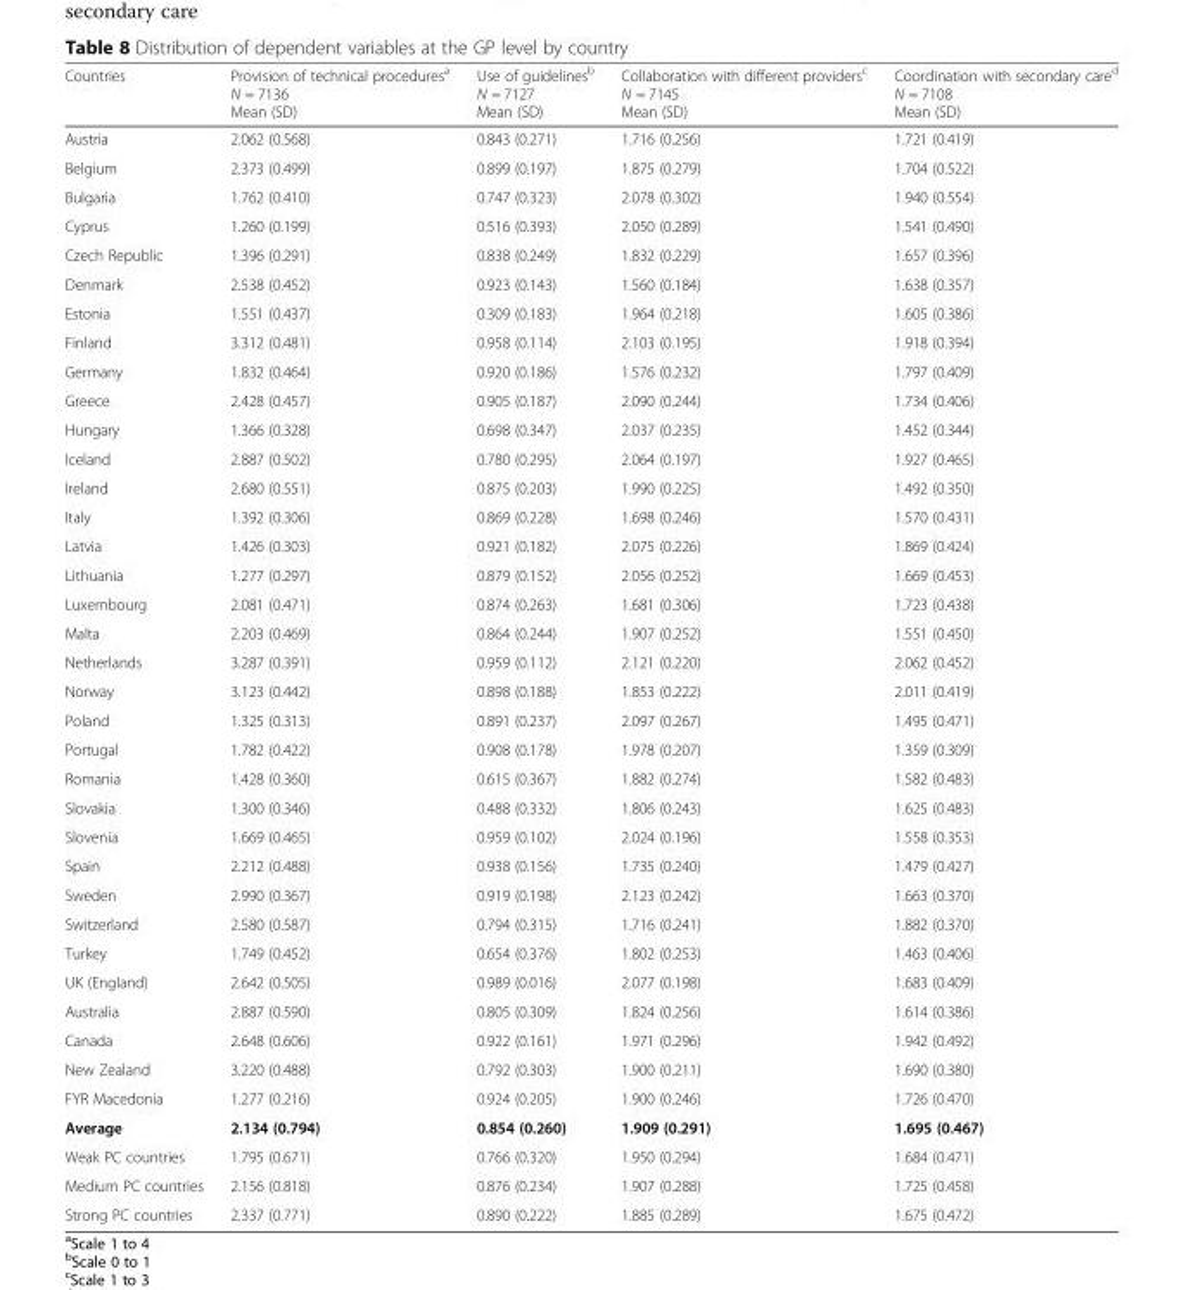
<table><thead><tr><td>Countries</td><td>Provision of technical procedures<sup>a</sup> N = 7136 Mean (SD)</td><td>Use of guidelines<sup>b</sup> N = 7127 Mean (SD)</td><td>Collaboration with different providers<sup>c</sup> N = 7145 Mean (SD)</td><td>Coordination with secondary care<sup>d</sup> N = 7108 Mean (SD)</td></tr></thead><tbody><tr><td>Austria</td><td>2.062 (0.568)</td><td>0.843 (0.271)</td><td>1.716 (0.256)</td><td>1.721 (0.419)</td></tr><tr><td>Belgium</td><td>2.373 (0.499)</td><td>0.899 (0.197)</td><td>1.875 (0.279)</td><td>1.704 (0.522)</td></tr><tr><td>Bulgaria</td><td>1.762 (0.410)</td><td>0.747 (0.323)</td><td>2.078 (0.302)</td><td>1.940 (0.554)</td></tr><tr><td>Cyprus</td><td>1.260 (0.199)</td><td>0.516 (0.393)</td><td>2.050 (0.289)</td><td>1.541 (0.490)</td></tr><tr><td>Czech Republic</td><td>1.396 (0.291)</td><td>0.838 (0.249)</td><td>1.832 (0.229)</td><td>1.657 (0.396)</td></tr><tr><td>Denmark</td><td>2.538 (0.452)</td><td>0.923 (0.143)</td><td>1.560 (0.184)</td><td>1.638 (0.357)</td></tr><tr><td>Estonia</td><td>1.551 (0.437)</td><td>0.309 (0.183)</td><td>1.964 (0.218)</td><td>1.605 (0.386)</td></tr><tr><td>Finland</td><td>3.312 (0.481)</td><td>0.958 (0.114)</td><td>2.103 (0.195)</td><td>1.918 (0.394)</td></tr><tr><td>Germany</td><td>1.832 (0.464)</td><td>0.920 (0.186)</td><td>1.576 (0.232)</td><td>1.797 (0.409)</td></tr><tr><td>Greece</td><td>2.428 (0.457)</td><td>0.905 (0.187)</td><td>2.090 (0.244)</td><td>1.734 (0.406)</td></tr><tr><td>Hungary</td><td>1.366 (0.328)</td><td>0.698 (0.347)</td><td>2.037 (0.235)</td><td>1.452 (0.344)</td></tr><tr><td>Iceland</td><td>2.887 (0.502)</td><td>0.780 (0.295)</td><td>2.064 (0.197)</td><td>1.927 (0.465)</td></tr><tr><td>Ireland</td><td>2.680 (0.551)</td><td>0.875 (0.203)</td><td>1.990 (0.225)</td><td>1.492 (0.350)</td></tr><tr><td>Italy</td><td>1.392 (0.306)</td><td>0.869 (0.228)</td><td>1.698 (0.246)</td><td>1.570 (0.431)</td></tr><tr><td>Latvia</td><td>1.426 (0.303)</td><td>0.921 (0.182)</td><td>2.075 (0.226)</td><td>1.869 (0.424)</td></tr><tr><td>Lithuania</td><td>1.277 (0.297)</td><td>0.879 (0.152)</td><td>2.056 (0.252)</td><td>1.669 (0.453)</td></tr><tr><td>Luxembourg</td><td>2.081 (0.471)</td><td>0.874 (0.263)</td><td>1.681 (0.306)</td><td>1.723 (0.438)</td></tr><tr><td>Malta</td><td>2.203 (0.469)</td><td>0.864 (0.244)</td><td>1.907 (0.252)</td><td>1.551 (0.450)</td></tr><tr><td>Netherlands</td><td>3.287 (0.391)</td><td>0.959 (0.112)</td><td>2.121 (0.220)</td><td>2.062 (0.452)</td></tr><tr><td>Norway</td><td>3.123 (0.442)</td><td>0.898 (0.188)</td><td>1.853 (0.222)</td><td>2.011 (0.419)</td></tr><tr><td>Poland</td><td>1.325 (0.313)</td><td>0.891 (0.237)</td><td>2.097 (0.267)</td><td>1.495 (0.471)</td></tr><tr><td>Portugal</td><td>1.782 (0.422)</td><td>0.908 (0.178)</td><td>1.978 (0.207)</td><td>1.359 (0.309)</td></tr><tr><td>Romania</td><td>1.428 (0.360)</td><td>0.615 (0.367)</td><td>1.882 (0.274)</td><td>1.582 (0.483)</td></tr><tr><td>Slovakia</td><td>1.300 (0.346)</td><td>0.488 (0.332)</td><td>1.806 (0.243)</td><td>1.625 (0.483)</td></tr><tr><td>Slovenia</td><td>1.669 (0.465)</td><td>0.959 (0.102)</td><td>2.024 (0.196)</td><td>1.558 (0.353)</td></tr><tr><td>Spain</td><td>2.212 (0.488)</td><td>0.938 (0.156)</td><td>1.735 (0.240)</td><td>1.479 (0.427)</td></tr><tr><td>Sweden</td><td>2.990 (0.367)</td><td>0.919 (0.198)</td><td>2.123 (0.242)</td><td>1.663 (0.370)</td></tr><tr><td>Switzerland</td><td>2.580 (0.587)</td><td>0.794 (0.315)</td><td>1.716 (0.241)</td><td>1.882 (0.370)</td></tr><tr><td>Turkey</td><td>1.749 (0.452)</td><td>0.654 (0.376)</td><td>1.802 (0.253)</td><td>1.463 (0.406)</td></tr><tr><td>UK (England)</td><td>2.642 (0.505)</td><td>0.989 (0.016)</td><td>2.077 (0.198)</td><td>1.683 (0.409)</td></tr><tr><td>Australia</td><td>2.887 (0.590)</td><td>0.805 (0.309)</td><td>1.824 (0.256)</td><td>1.614 (0.386)</td></tr><tr><td>Canada</td><td>2.648 (0.606)</td><td>0.922 (0.161)</td><td>1.971 (0.296)</td><td>1.942 (0.492)</td></tr><tr><td>New Zealand</td><td>3.220 (0.488)</td><td>0.792 (0.303)</td><td>1.900 (0.211)</td><td>1.690 (0.380)</td></tr><tr><td>FYR Macedonia</td><td>1.277 (0.216)</td><td>0.924 (0.205)</td><td>1.900 (0.246)</td><td>1.726 (0.470)</td></tr><tr><td>Average</td><td>2.134 (0.794)</td><td>0.854 (0.260)</td><td>1.909 (0.291)</td><td>1.695 (0.467)</td></tr><tr><td>Weak PC countries</td><td>1.795 (0.671)</td><td>0.766 (0.320)</td><td>1.950 (0.294)</td><td>1.684 (0.471)</td></tr><tr><td>Medium PC countries</td><td>2.156 (0.818)</td><td>0.876 (0.234)</td><td>1.907 (0.288)</td><td>1.725 (0.458)</td></tr><tr><td>Strong PC countries</td><td>2.337 (0.771)</td><td>0.890 (0.222)</td><td>1.885 (0.289)</td><td>1.675 (0.472)</td></tr></tbody></table>